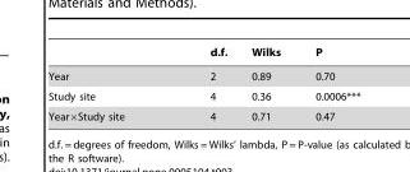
<table><thead><tr><td></td><td>d.f.</td><td>Wilks</td><td>P</td></tr></thead><tbody><tr><td>Year</td><td>2</td><td>0.89</td><td>0.70</td></tr><tr><td>Study site</td><td>4</td><td>0.36</td><td>0.0006***</td></tr><tr><td>Year×Study site</td><td>4</td><td>0.71</td><td>0.47</td></tr></tbody></table>